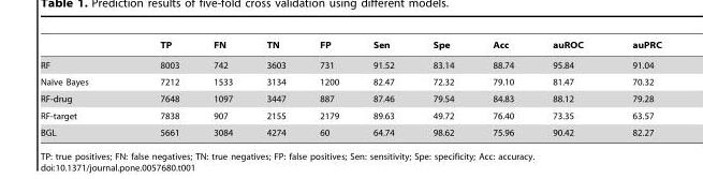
<table><thead><tr><td></td><td>TP</td><td>FN</td><td>TN</td><td>FP</td><td>Sen</td><td>Spe</td><td>Acc</td><td>auROC</td><td>auPRC</td></tr></thead><tbody><tr><td>RF</td><td>8003</td><td>742</td><td>3603</td><td>731</td><td>91.52</td><td>83.14</td><td>88.74</td><td>95.84</td><td>91.04</td></tr><tr><td>Naı¨ve Bayes</td><td>7212</td><td>1533</td><td>3134</td><td>1200</td><td>82.47</td><td>72.32</td><td>79.10</td><td>81.47</td><td>70.32</td></tr><tr><td>RF-drug</td><td>7648</td><td>1097</td><td>3447</td><td>887</td><td>87.46</td><td>79.54</td><td>84.83</td><td>88.12</td><td>79.28</td></tr><tr><td>RF-target</td><td>7838</td><td>907</td><td>2155</td><td>2179</td><td>89.63</td><td>49.72</td><td>76.40</td><td>73.35</td><td>63.57</td></tr><tr><td>BGL</td><td>5661</td><td>3084</td><td>4274</td><td>60</td><td>64.74</td><td>98.62</td><td>75.96</td><td>90.42</td><td>82.27</td></tr></tbody></table>